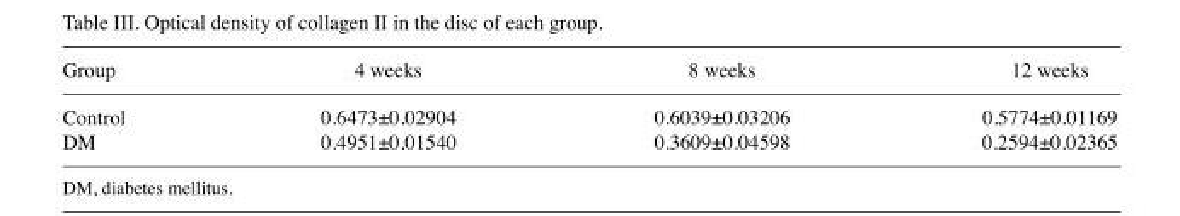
<table><thead><tr><td>Group</td><td>4 weeks</td><td>8 weeks</td><td>12 weeks</td></tr></thead><tbody><tr><td>Control</td><td>0.6473±0.02904</td><td>0.6039±0.03206</td><td>0.5774±0.01169</td></tr><tr><td>DM</td><td>0.4951±0.01540</td><td>0.3609±0.04598</td><td>0.2594±0.02365</td></tr></tbody></table>